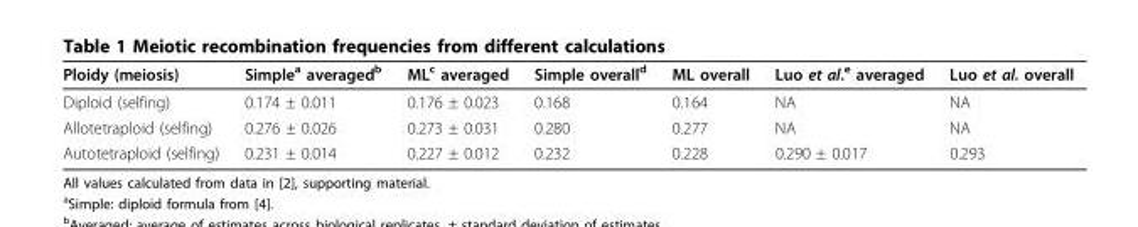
<table><thead><tr><td>Ploidy (meiosis)</td><td>Simple<sup>a</sup> averaged<sup>b</sup></td><td>ML<sup>c</sup> averaged</td><td>Simple overall<sup>d</sup></td><td>ML overall</td><td>Luo et al.<sup>e</sup> averaged</td><td>Luo et al. overall</td></tr></thead><tbody><tr><td>Diploid (selfing)</td><td>0.174 ± 0.011</td><td>0.176 ± 0.023</td><td>0.168</td><td>0.164</td><td>NA</td><td>NA</td></tr><tr><td>Allotetraploid (selfing)</td><td>0.276 ± 0.026</td><td>0.273 ± 0.031</td><td>0.280</td><td>0.277</td><td>NA</td><td>NA</td></tr><tr><td>Autotetraploid (selfing)</td><td>0.231 ± 0.014</td><td>0.227 ± 0.012</td><td>0.232</td><td>0.228</td><td>0.290 ± 0.017</td><td>0.293</td></tr></tbody></table>